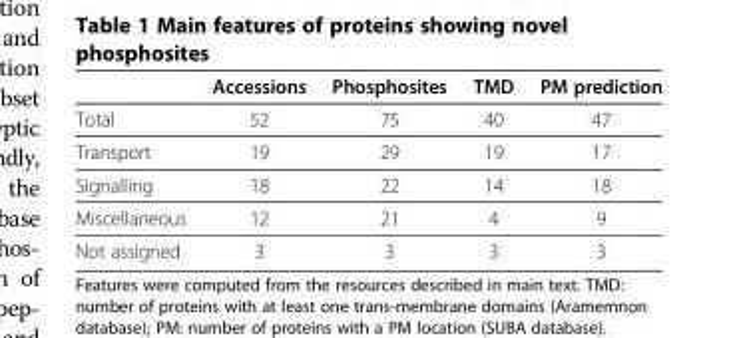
<table><thead><tr><td></td><td>Accessions</td><td>Phosphosites</td><td>TMD</td><td>PM prediction</td></tr></thead><tbody><tr><td>Total</td><td>52</td><td>75</td><td>40</td><td>47</td></tr><tr><td>Transport</td><td>19</td><td>29</td><td>19</td><td>17</td></tr><tr><td>Signalling</td><td>18</td><td>22</td><td>14</td><td>18</td></tr><tr><td>Miscellaneous</td><td>12</td><td>21</td><td>4</td><td>9</td></tr><tr><td>Not assigned</td><td>3</td><td>3</td><td>3</td><td>3</td></tr></tbody></table>